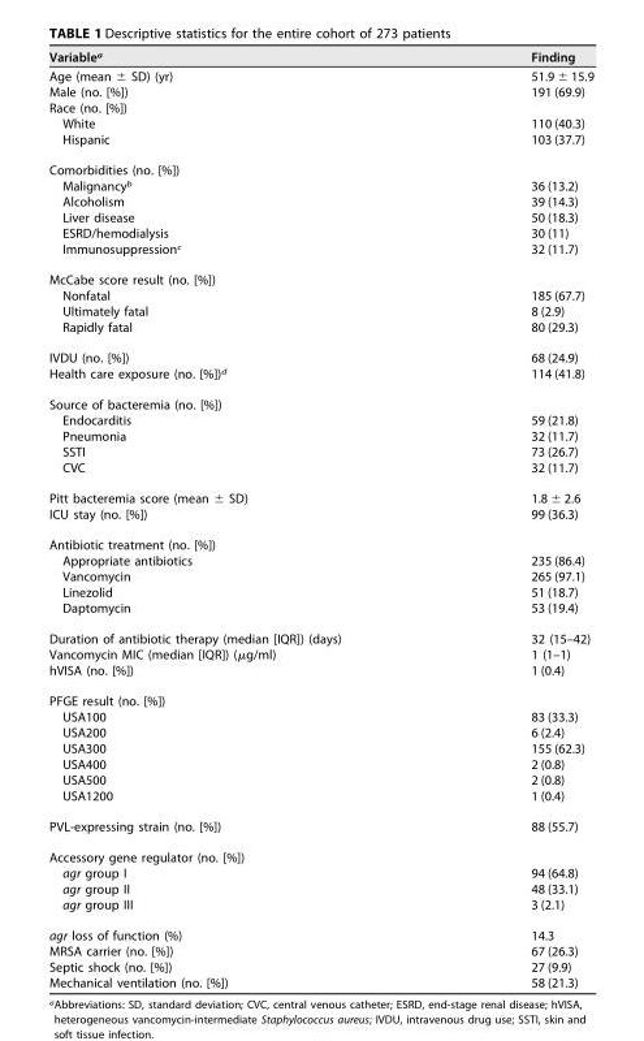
<table><thead><tr><td>Variable<sup>a</sup></td><td>Finding</td></tr></thead><tbody><tr><td>Age (mean ± SD) (yr)</td><td>51.9 ± 15.9</td></tr><tr><td>Male (no. [%])</td><td>191 (69.9)</td></tr><tr><td colspan="2">Race (no. [%])</td></tr><tr><td>White</td><td>110 (40.3)</td></tr><tr><td>Hispanic</td><td>103 (37.7)</td></tr><tr><td colspan="2">Comorbidities (no. [%])</td></tr><tr><td>Malignancy<sup>b</sup></td><td>36 (13.2)</td></tr><tr><td>Alcoholism</td><td>39 (14.3)</td></tr><tr><td>Liver disease</td><td>50 (18.3)</td></tr><tr><td>ESRD/hemodialysis</td><td>30 (11)</td></tr><tr><td>Immunosuppression<sup>c</sup></td><td>32 (11.7)</td></tr><tr><td colspan="2">McCabe score result (no. [%])</td></tr><tr><td>Nonfatal</td><td>185 (67.7)</td></tr><tr><td>Ultimately fatal</td><td>8 (2.9)</td></tr><tr><td>Rapidly fatal</td><td>80 (29.3)</td></tr><tr><td>IVDU (no. [%])</td><td>68 (24.9)</td></tr><tr><td>Health care exposure (no. [%])<sup>d</sup></td><td>114 (41.8)</td></tr><tr><td colspan="2">Source of bacteremia (no. [%])</td></tr><tr><td>Endocarditis</td><td>59 (21.8)</td></tr><tr><td>Pneumonia</td><td>32 (11.7)</td></tr><tr><td>SSTI</td><td>73 (26.7)</td></tr><tr><td>CVC</td><td>32 (11.7)</td></tr><tr><td>Pitt bacteremia score (mean ± SD)</td><td>1.8 ± 2.6</td></tr><tr><td>ICU stay (no. [%])</td><td>99 (36.3)</td></tr><tr><td colspan="2">Antibiotic treatment (no. [%])</td></tr><tr><td>Appropriate antibiotics</td><td>235 (86.4)</td></tr><tr><td>Vancomycin</td><td>265 (97.1)</td></tr><tr><td>Linezolid</td><td>51 (18.7)</td></tr><tr><td>Daptomycin</td><td>53 (19.4)</td></tr><tr><td>Duration of antibiotic therapy (median [IQR]) (days)</td><td>32 (15–42)</td></tr><tr><td>Vancomycin MIC (median [IQR]) (μg/ml)</td><td>1 (1–1)</td></tr><tr><td>hVISA (no. [%])</td><td>1 (0.4)</td></tr><tr><td colspan="2">PFGE result (no. [%])</td></tr><tr><td>USA100</td><td>83 (33.3)</td></tr><tr><td>USA200</td><td>6 (2.4)</td></tr><tr><td>USA300</td><td>155 (62.3)</td></tr><tr><td>USA400</td><td>2 (0.8)</td></tr><tr><td>USA500</td><td>2 (0.8)</td></tr><tr><td>USA1200</td><td>1 (0.4)</td></tr><tr><td>PVL-expressing strain (no. [%])</td><td>88 (55.7)</td></tr><tr><td colspan="2">Accessory gene regulator (no. [%])</td></tr><tr><td>agr group I</td><td>94 (64.8)</td></tr><tr><td>agr group II</td><td>48 (33.1)</td></tr><tr><td>agr group III</td><td>3 (2.1)</td></tr><tr><td>agr loss of function (%)</td><td>14.3</td></tr><tr><td>MRSA carrier (no. [%])</td><td>67 (26.3)</td></tr><tr><td>Septic shock (no. [%])</td><td>27 (9.9)</td></tr><tr><td>Mechanical ventilation (no. [%])</td><td>58 (21.3)</td></tr></tbody></table>